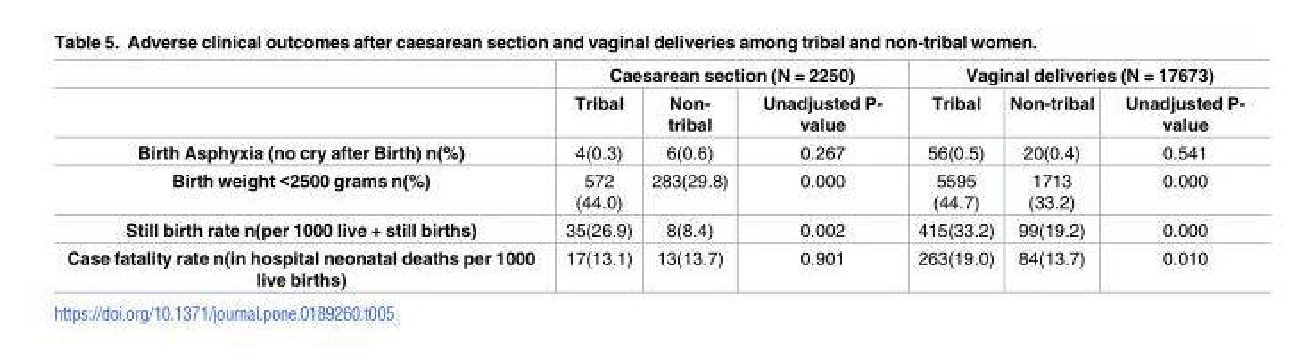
<table><thead><tr><td rowspan="2"></td><td colspan="3">Caesarean section (N = 2250)</td><td colspan="3">Vaginal deliveries (N = 17673)</td></tr><tr><td>Tribal</td><td>Non- tribal</td><td>Unadjusted P- value</td><td>Tribal</td><td>Non-tribal</td><td>Unadjusted P- value</td></tr></thead><tbody><tr><td>Birth Asphyxia (no cry after Birth) n(%)</td><td>4(0.3)</td><td>6(0.6)</td><td>0.267</td><td>56(0.5)</td><td>20(0.4)</td><td>0.541</td></tr><tr><td>Birth weight &lt;2500 grams n(%)</td><td>572 (44.0)</td><td>283(29.8)</td><td>0.000</td><td>5595 (44.7)</td><td>1713 (33.2)</td><td>0.000</td></tr><tr><td>Still birth rate n(per 1000 live + still births)</td><td>35(26.9)</td><td>8(8.4)</td><td>0.002</td><td>415(33.2)</td><td>99(19.2)</td><td>0.000</td></tr><tr><td>Case fatality rate n(in hospital neonatal deaths per 1000 live births)</td><td>17(13.1)</td><td>13(13.7)</td><td>0.901</td><td>263(19.0)</td><td>84(13.7)</td><td>0.010</td></tr></tbody></table>